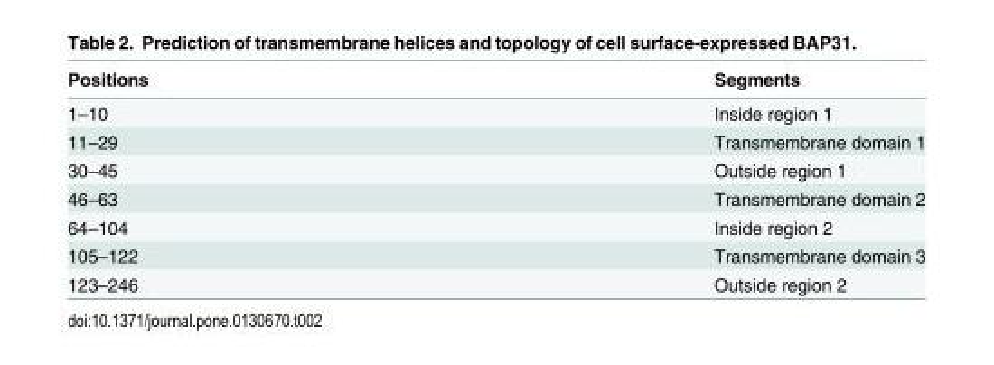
<table><thead><tr><td>Positions</td><td>Segments</td></tr></thead><tbody><tr><td>1–10</td><td>Inside region 1</td></tr><tr><td>11–29</td><td>Transmembrane domain 1</td></tr><tr><td>30–45</td><td>Outside region 1</td></tr><tr><td>46–63</td><td>Transmembrane domain 2</td></tr><tr><td>64–104</td><td>Inside region 2</td></tr><tr><td>105–122</td><td>Transmembrane domain 3</td></tr><tr><td>123–246</td><td>Outside region 2</td></tr></tbody></table>